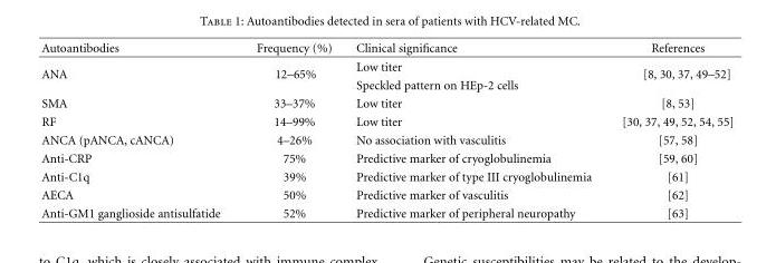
<table><thead><tr><td>Autoantibodies</td><td>Frequency (%)</td><td>Clinical significance</td><td>References</td></tr></thead><tbody><tr><td rowspan="2">ANA</td><td rowspan="2">12–65%</td><td>Low titer</td><td rowspan="2">[8, 30, 37, 49–52]</td></tr><tr><td>Speckled pattern on HEp-2 cells</td></tr><tr><td>SMA</td><td>33–37%</td><td>Low titer</td><td>[8, 53]</td></tr><tr><td>RF</td><td>14–99%</td><td>Low titer</td><td>[30, 37, 49, 52, 54, 55]</td></tr><tr><td>ANCA (pANCA, cANCA)</td><td>4–26%</td><td>No association with vasculitis</td><td>[57, 58]</td></tr><tr><td>Anti-CRP</td><td>75%</td><td>Predictive marker of cryoglobulinemia</td><td>[59, 60]</td></tr><tr><td>Anti-C1q</td><td>39%</td><td>Predictive marker of type III cryoglobulinemia</td><td>[61]</td></tr><tr><td>AECA</td><td>50%</td><td>Predictive marker of vasculitis</td><td>[62]</td></tr><tr><td>Anti-GM1 ganglioside antisulfatide</td><td>52%</td><td>Predictive marker of peripheral neuropathy</td><td>[63]</td></tr></tbody></table>